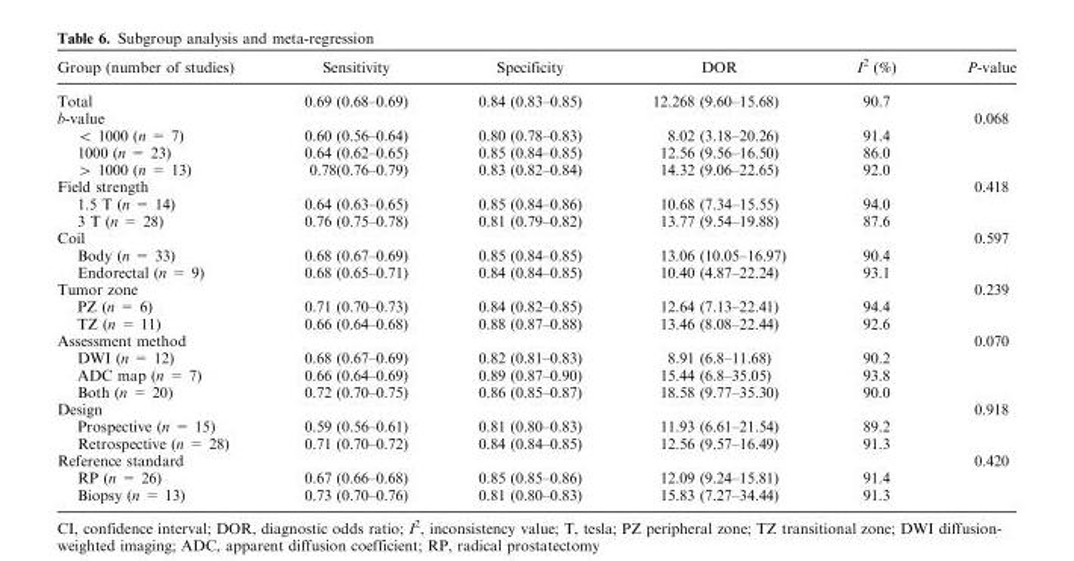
<table><thead><tr><td>Group (number of studies)</td><td>Sensitivity</td><td>Specificity</td><td>DOR</td><td>I<sup>2</sup> (%)</td><td>P-value</td></tr></thead><tbody><tr><td>Total</td><td>0.69 (0.68–0.69)</td><td>0.84 (0.83–0.85)</td><td>12.268 (9.60–15.68)</td><td>90.7</td><td></td></tr><tr><td>b-value</td><td></td><td></td><td></td><td></td><td>0.068</td></tr><tr><td>&lt; 1000 (n = 7)</td><td>0.60 (0.56–0.64)</td><td>0.80 (0.78–0.83)</td><td>8.02 (3.18–20.26)</td><td>91.4</td><td rowspan="3"></td></tr><tr><td>1000 (n = 23)</td><td>0.64 (0.62–0.65)</td><td>0.85 (0.84–0.85)</td><td>12.56 (9.56–16.50)</td><td>86.0</td></tr><tr><td>&gt; 1000 (n = 13)</td><td>0.78(0.76–0.79)</td><td>0.83 (0.82–0.84)</td><td>14.32 (9.06–22.65)</td><td>92.0</td></tr><tr><td>Field strength</td><td></td><td></td><td></td><td></td><td>0.418</td></tr><tr><td>1.5 T (n = 14)</td><td>0.64 (0.63–0.65)</td><td>0.85 (0.84–0.86)</td><td>10.68 (7.34–15.55)</td><td>94.0</td><td rowspan="2"></td></tr><tr><td>3 T (n = 28)</td><td>0.76 (0.75–0.78)</td><td>0.81 (0.79–0.82)</td><td>13.77 (9.54–19.88)</td><td>87.6</td></tr><tr><td>Coil</td><td></td><td></td><td></td><td></td><td>0.597</td></tr><tr><td>Body (n = 33)</td><td>0.68 (0.67–0.69)</td><td>0.85 (0.84–0.85)</td><td>13.06 (10.05–16.97)</td><td>90.4</td><td rowspan="2"></td></tr><tr><td>Endorectal (n = 9)</td><td>0.68 (0.65–0.71)</td><td>0.84 (0.84–0.85)</td><td>10.40 (4.87–22.24)</td><td>93.1</td></tr><tr><td>Tumor zone</td><td></td><td></td><td></td><td></td><td>0.239</td></tr><tr><td>PZ (n = 6)</td><td>0.71 (0.70–0.73)</td><td>0.84 (0.82–0.85)</td><td>12.64 (7.13–22.41)</td><td>94.4</td><td rowspan="2"></td></tr><tr><td>TZ (n = 11)</td><td>0.66 (0.64–0.68)</td><td>0.88 (0.87–0.88)</td><td>13.46 (8.08–22.44)</td><td>92.6</td></tr><tr><td>Assessment method</td><td></td><td></td><td></td><td></td><td>0.070</td></tr><tr><td>DWI (n = 12)</td><td>0.68 (0.67–0.69)</td><td>0.82 (0.81–0.83)</td><td>8.91 (6.8–11.68)</td><td>90.2</td><td rowspan="3"></td></tr><tr><td>ADC map (n = 7)</td><td>0.66 (0.64–0.69)</td><td>0.89 (0.87–0.90)</td><td>15.44 (6.8–35.05)</td><td>93.8</td></tr><tr><td>Both (n = 20)</td><td>0.72 (0.70–0.75)</td><td>0.86 (0.85–0.87)</td><td>18.58 (9.77–35.30)</td><td>90.0</td></tr><tr><td>Design</td><td></td><td></td><td></td><td></td><td>0.918</td></tr><tr><td>Prospective (n = 15)</td><td>0.59 (0.56–0.61)</td><td>0.81 (0.80–0.83)</td><td>11.93 (6.61–21.54)</td><td>89.2</td><td rowspan="2"></td></tr><tr><td>Retrospective (n = 28)</td><td>0.71 (0.70–0.72)</td><td>0.84 (0.84–0.85)</td><td>12.56 (9.57–16.49)</td><td>91.3</td></tr><tr><td>Reference standard</td><td></td><td></td><td></td><td></td><td>0.420</td></tr><tr><td>RP (n = 26)</td><td>0.67 (0.66–0.68)</td><td>0.85 (0.85–0.86)</td><td>12.09 (9.24–15.81)</td><td>91.4</td><td rowspan="2"></td></tr><tr><td>Biopsy (n = 13)</td><td>0.73 (0.70–0.76)</td><td>0.81 (0.80–0.83)</td><td>15.83 (7.27–34.44)</td><td>91.3</td></tr></tbody></table>